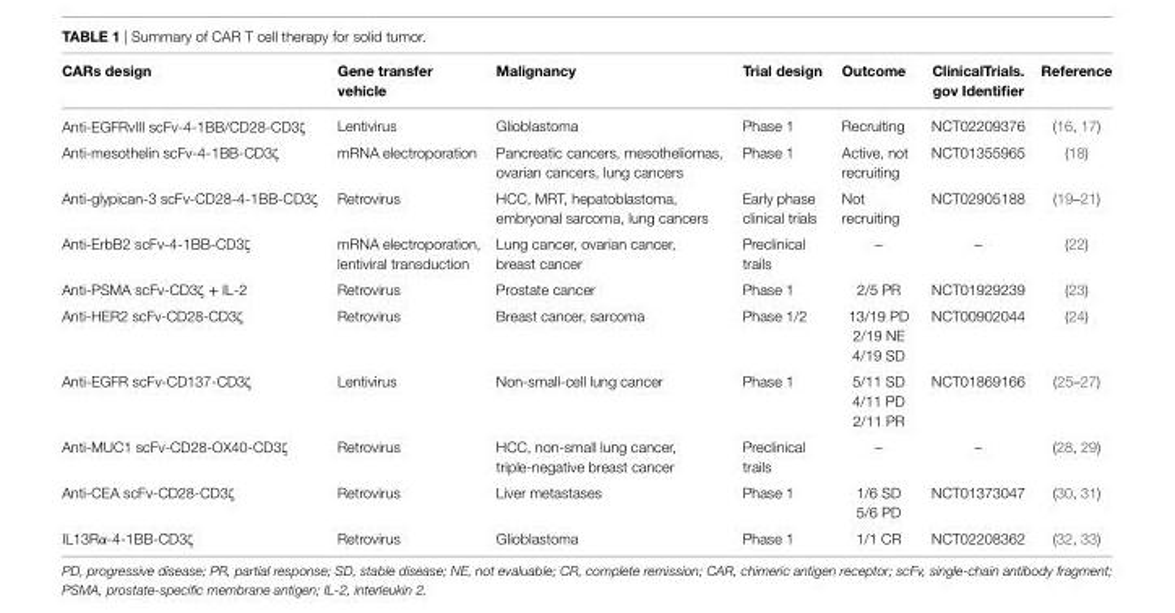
<table><thead><tr><td>CARs design</td><td>Gene transfer vehicle</td><td>Malignancy</td><td>Trial design</td><td>Outcome</td><td>ClinicalTrials. gov identifier</td><td>Reference</td></tr></thead><tbody><tr><td>Anti-EGFRvIII scFv-4-1BB/CD28-CD3ζ</td><td>Lentivirus</td><td>Glioblastoma</td><td>Phase 1</td><td>Recruiting</td><td>NCT02209376</td><td>(16, 17)</td></tr><tr><td>Anti-mesothelin scFv-4-1BB-CD3ζ</td><td>mRNA electroporation</td><td>Pancreatic cancers, mesotheliomas, ovarian cancers, lung cancers</td><td>Phase 1</td><td>Active, not recruiting</td><td>NCT01355965</td><td>(18)</td></tr><tr><td>Anti-glypican-3 scFv-CD28-4-1BB-CD3ζ</td><td>Retrovirus</td><td>HCC, MRT, hepatoblastoma, embryonal sarcoma, lung cancers</td><td>Early phase clinical trials</td><td>Not recruiting</td><td>NCT02905188</td><td>(19–21)</td></tr><tr><td>Anti-ErbB2 scFv-4-1BB-CD3ζ</td><td>mRNA electroporation, lentiviral transduction</td><td>Lung cancer, ovarian cancer, breast cancer</td><td>Preclinical trails</td><td>–</td><td>–</td><td>(22)</td></tr><tr><td>Anti-PSMA scFv-CD3ζ + IL-2</td><td>Retrovirus</td><td>Prostate cancer</td><td>Phase 1</td><td>2/5 PR</td><td>NCT01929239</td><td>(23)</td></tr><tr><td>Anti-HER2 scFv-CD28-CD3ζ</td><td>Retrovirus</td><td>Breast cancer, sarcoma</td><td>Phase 1/2</td><td>13/19 PD 2/19 NE 4/19 SD</td><td>NCT00902044</td><td>(24)</td></tr><tr><td>Anti-EGFR scFv-CD137-CD3ζ</td><td>Lentivirus</td><td>Non-small-cell lung cancer</td><td>Phase 1</td><td>5/11 SD 4/11 PD 2/11 PR</td><td>NCT01869166</td><td>(25–27)</td></tr><tr><td>Anti-MUC1 scFv-CD28-OX40-CD3ζ</td><td>Retrovirus</td><td>HCC, non-small lung cancer, triple-negative breast cancer</td><td>Preclinical trails</td><td>–</td><td>–</td><td>(28, 29)</td></tr><tr><td>Anti-CEA scFv-CD28-CD3ζ</td><td>Retrovirus</td><td>Liver metastases</td><td>Phase 1</td><td>1/6 SD 5/6 PD</td><td>NCT01373047</td><td>(30, 31)</td></tr><tr><td>IL13Rα-4-1BB-CD3ζ</td><td>Retrovirus</td><td>Glioblastoma</td><td>Phase 1</td><td>1/1 CR</td><td>NCT02208362</td><td>(32, 33)</td></tr></tbody></table>